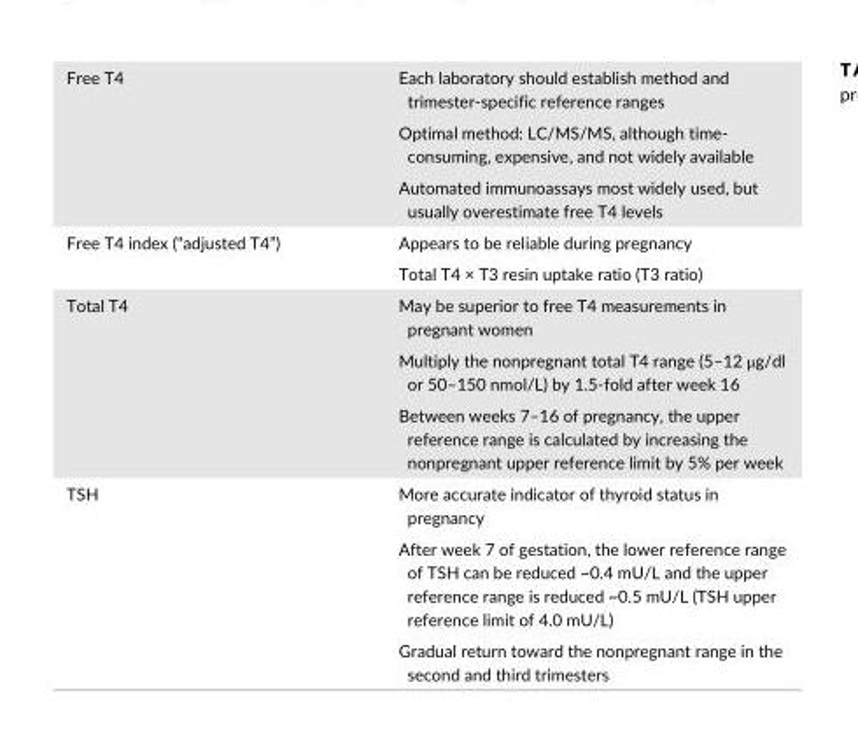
<table><tbody><tr><td rowspan="3">Free T4</td><td>Each laboratory should establish method and trimester- specific reference ranges</td></tr><tr><td>Optimal method: LC/MS/MS, although time- consuming, expensive, and not widely available</td></tr><tr><td>Automated immunoassays most widely used, but usually overestimate free T4 levels</td></tr><tr><td rowspan="2">Free T4 index (“adjusted T4”)</td><td>Appears to be reliable during pregnancy</td></tr><tr><td>Total T4 × T3 resin uptake ratio (T3 ratio)</td></tr><tr><td rowspan="3">Total T4</td><td>May be superior to free T4 measurements in pregnant women</td></tr><tr><td>Multiply the nonpregnant total T4 range (5–12 μg/dl or 50–150 nmol/L) by 1.5- fold after week 16</td></tr><tr><td>Between weeks 7–16 of pregnancy, the upper reference range is calculated by increasing the nonpregnant upper reference limit by 5% per week</td></tr><tr><td rowspan="3">TSH</td><td>More accurate indicator of thyroid status in pregnancy</td></tr><tr><td>After week 7 of gestation, the lower reference range of TSH can be reduced ~0.4 mU/L and the upper reference range is reduced ~0.5 mU/L (TSH upper reference limit of 4.0 mU/L)</td></tr><tr><td>Gradual return toward the nonpregnant range in the second and third trimesters</td></tr></tbody></table>